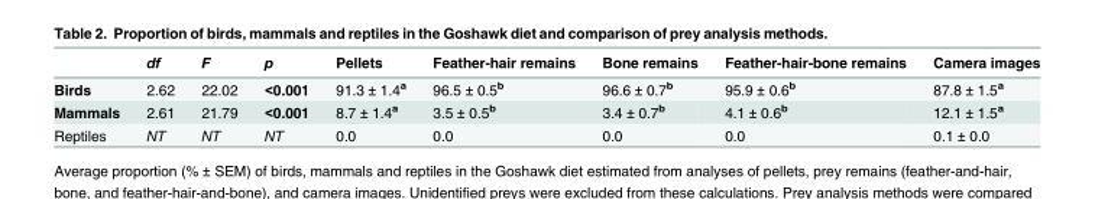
<table><thead><tr><td></td><td>df</td><td>F</td><td>p</td><td>Pellets</td><td>Feather-hair remains</td><td>Bone remains</td><td>Feather-hair-bone remains</td><td>Camera images</td></tr></thead><tbody><tr><td>Birds</td><td>2.62</td><td>22.02</td><td>&lt;0.001</td><td>91.3 ± 1.4<sup>a</sup></td><td>96.5 ± 0.5<sup>b</sup></td><td>96.6 ± 0.7<sup>b</sup></td><td>95.9 ± 0.6<sup>b</sup></td><td>87.8 ± 1.5<sup>a</sup></td></tr><tr><td>Mammals</td><td>2.61</td><td>21.79</td><td>&lt;0.001</td><td>8.7 ± 1.4<sup>a</sup></td><td>3.5 ± 0.5<sup>b</sup></td><td>3.4 ± 0.7<sup>b</sup></td><td>4.1 ± 0.6<sup>b</sup></td><td>12.1 ± 1.5<sup>a</sup></td></tr><tr><td>Reptiles</td><td>NT</td><td>NT</td><td>NT</td><td>0.0</td><td>0.0</td><td>0.0</td><td>0.0</td><td>0.1 ± 0.0</td></tr></tbody></table>